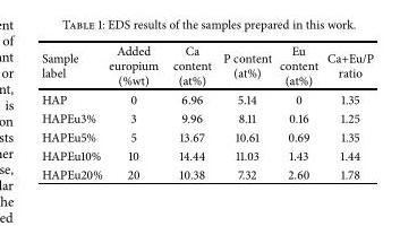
<table><thead><tr><td>Sample label</td><td>Added europium (%wt)</td><td>Ca content (at%)</td><td>P content (at%)</td><td>Eu content (at%)</td><td>Ca+Eu/P ratio</td></tr></thead><tbody><tr><td>HAP</td><td>0</td><td>6.96</td><td>5.14</td><td>0</td><td>1.35</td></tr><tr><td>HAPEu3%</td><td>3</td><td>9.96</td><td>8.11</td><td>0.16</td><td>1.25</td></tr><tr><td>HAPEu5%</td><td>5</td><td>13.67</td><td>10.61</td><td>0.69</td><td>1.35</td></tr><tr><td>HAPEu10%</td><td>10</td><td>14.44</td><td>11.03</td><td>1.43</td><td>1.44</td></tr><tr><td>HAPEu20%</td><td>20</td><td>10.38</td><td>7.32</td><td>2.60</td><td>1.78</td></tr></tbody></table>